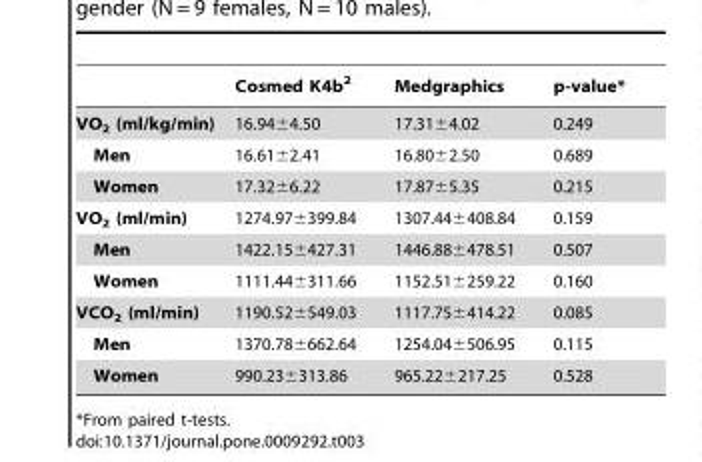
<table><thead><tr><td></td><td>Cosmed K4b<sup>2</sup></td><td>Medgraphics</td><td>p-value*</td></tr></thead><tbody><tr><td>VO<sub>2</sub> (ml/kg/min)</td><td>16.94±4.50</td><td>17.31±4.02</td><td>0.249</td></tr><tr><td>Men</td><td>16.61±2.41</td><td>16.80±2.50</td><td>0.689</td></tr><tr><td>Women</td><td>17.32±6.22</td><td>17.87±5.35</td><td>0.215</td></tr><tr><td>VO<sub>2</sub> (ml/min)</td><td>1274.97±399.84</td><td>1307.44±408.84</td><td>0.159</td></tr><tr><td>Men</td><td>1422.15±427.31</td><td>1446.88±478.51</td><td>0.507</td></tr><tr><td>Women</td><td>1111.44±311.66</td><td>1152.51±259.22</td><td>0.160</td></tr><tr><td>VCO<sub>2</sub> (ml/min)</td><td>1190.52±549.03</td><td>1117.75±414.22</td><td>0.085</td></tr><tr><td>Men</td><td>1370.78±662.64</td><td>1254.04±506.95</td><td>0.115</td></tr><tr><td>Women</td><td>990.23±313.86</td><td>965.22±217.25</td><td>0.528</td></tr></tbody></table>